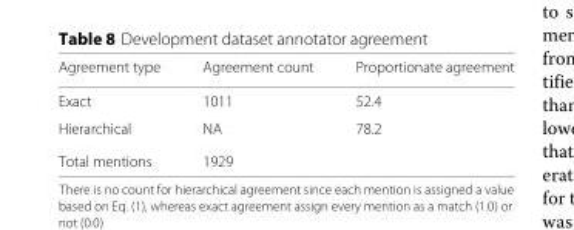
<table><thead><tr><td>Agreement type</td><td>Agreement count</td><td>Proportionate agreement</td></tr></thead><tbody><tr><td>Exact</td><td>1011</td><td>52.4</td></tr><tr><td>Hierarchical</td><td>NA</td><td>78.2</td></tr><tr><td>Total mentions</td><td>1929</td><td></td></tr></tbody></table>